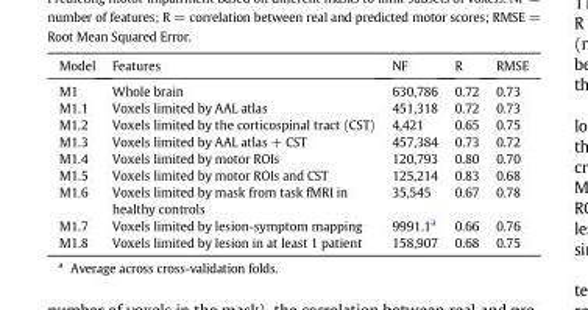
<table><thead><tr><td>Model</td><td>Features</td><td>NF</td><td>R</td><td>RMSE</td></tr></thead><tbody><tr><td>M1</td><td>Whole brain</td><td>630,786</td><td>0.72</td><td>0.73</td></tr><tr><td>M1.1</td><td>Voxels limited by AAL atlas</td><td>451,318</td><td>0.72</td><td>0.73</td></tr><tr><td>M1.2</td><td>Voxels limited by the corticospinal tract (CST)</td><td>4,421</td><td>0.65</td><td>0.75</td></tr><tr><td>M1.3</td><td>Voxels limited by AAL atlas + CST</td><td>457,384</td><td>0.73</td><td>0.72</td></tr><tr><td>M1.4</td><td>Voxels limited by motor ROIs</td><td>120,793</td><td>0.80</td><td>0.70</td></tr><tr><td>M1.5</td><td>Voxels limited by motor ROIs and CST</td><td>125,214</td><td>0.83</td><td>0.68</td></tr><tr><td>M1.6</td><td>Voxels limited by mask from task fMRI in healthy controls</td><td>35,545</td><td>0.67</td><td>0.78</td></tr><tr><td>M1.7</td><td>Voxels limited by lesion-symptom mapping</td><td>9991.1<sup>a</sup></td><td>0.66</td><td>0.76</td></tr><tr><td>M1.8</td><td>Voxels limited by lesion in at least 1 patient</td><td>158,907</td><td>0.68</td><td>0.75</td></tr></tbody></table>